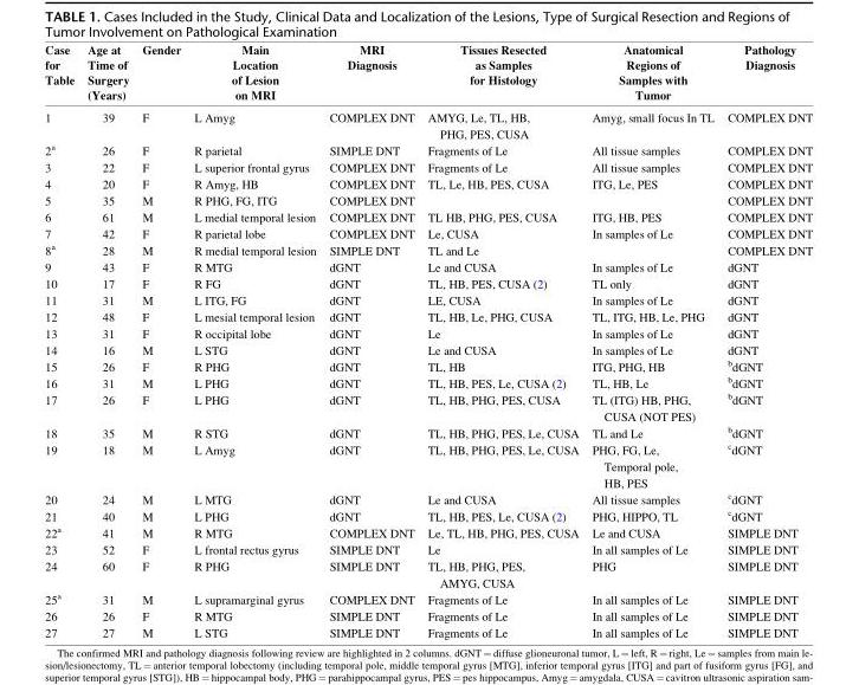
<table><thead><tr><td>Case for Table</td><td>Age at Time of Surgery (Years)</td><td>Gender</td><td>Main Location of Lesion on MRI</td><td>MRI Diagnosis</td><td>Tissues Resected as Samples for Histology</td><td>Anatomical Regions of Samples with Tumor</td><td>Pathology Diagnosis</td></tr></thead><tbody><tr><td>1</td><td>39</td><td>F</td><td>L Amyg</td><td>COMPLEX DNT</td><td>AMYG, Le, TL, HB, PHG, PES, CUSA</td><td>Amyg, small focus In TL</td><td>COMPLEX DNT</td></tr><tr><td>2<sup>a</sup></td><td>26</td><td>F</td><td>R parietal</td><td>SIMPLE DNT</td><td>Fragments of Le</td><td>All tissue samples</td><td>COMPLEX DNT</td></tr><tr><td>3</td><td>22</td><td>F</td><td>L superior frontal gyrus</td><td>COMPLEX DNT</td><td>Fragments of Le</td><td>All tissue samples</td><td>COMPLEX DNT</td></tr><tr><td>4</td><td>20</td><td>F</td><td>R Amyg, HB</td><td>COMPLEX DNT</td><td>TL, Le, HB, PES, CUSA</td><td>ITG, Le, PES</td><td>COMPLEX DNT</td></tr><tr><td>5</td><td>35</td><td>M</td><td>R PHG, FG, ITG</td><td>COMPLEX DNT</td><td></td><td></td><td>COMPLEX DNT</td></tr><tr><td>6</td><td>61</td><td>M</td><td>L medial temporal lesion</td><td>COMPLEX DNT</td><td>TL HB, PHG, PES, CUSA</td><td>ITG, HB, PES</td><td>COMPLEX DNT</td></tr><tr><td>7</td><td>42</td><td>F</td><td>R parietal lobe</td><td>COMPLEX DNT</td><td>Le, CUSA</td><td>In samples of Le</td><td>COMPLEX DNT</td></tr><tr><td>8<sup>a</sup></td><td>28</td><td>M</td><td>R medial temporal lesion</td><td>SIMPLE DNT</td><td>TL and Le</td><td></td><td>COMPLEX DNT</td></tr><tr><td>9</td><td>43</td><td>F</td><td>R MTG</td><td>dGNT</td><td>Le and CUSA</td><td>In samples of Le</td><td>dGNT</td></tr><tr><td>10</td><td>17</td><td>F</td><td>R FG</td><td>dGNT</td><td>TL, HB, PES, CUSA (2)</td><td>TL only</td><td>dGNT</td></tr><tr><td>11</td><td>31</td><td>M</td><td>L ITG, FG</td><td>dGNT</td><td>LE, CUSA</td><td>In samples of Le</td><td>dGNT</td></tr><tr><td>12</td><td>48</td><td>F</td><td>L mesial temporal lesion</td><td>dGNT</td><td>TL, HB, Le, PHG, CUSA</td><td>TL, ITG, HB, Le, PHG</td><td>dGNT</td></tr><tr><td>13</td><td>31</td><td>F</td><td>R occipital lobe</td><td>dGNT</td><td>Le</td><td>In samples of Le</td><td>dGNT</td></tr><tr><td>14</td><td>16</td><td>M</td><td>L STG</td><td>dGNT</td><td>Le and CUSA</td><td>In samples of Le</td><td>dGNT</td></tr><tr><td>15</td><td>26</td><td>F</td><td>R PHG</td><td>dGNT</td><td>TL, HB</td><td>ITG, PHG, HB</td><td><sup>b</sup>dGNT</td></tr><tr><td>16</td><td>31</td><td>M</td><td>L PHG</td><td>dGNT</td><td>TL, HB, PES, Le, CUSA (2)</td><td>TL, HB, Le</td><td><sup>b</sup>dGNT</td></tr><tr><td>17</td><td>26</td><td>F</td><td>L PHG</td><td>dGNT</td><td>TL, HB, PHG, PES, CUSA</td><td>TL (ITG) HB, PHG, CUSA (NOT PES)</td><td><sup>b</sup>dGNT</td></tr><tr><td>18</td><td>35</td><td>M</td><td>R STG</td><td>dGNT</td><td>TL, HB, PHG, PES, Le, CUSA</td><td>TL and Le</td><td><sup>b</sup>dGNT</td></tr><tr><td>19</td><td>18</td><td>M</td><td>L Amyg</td><td>dGNT</td><td>TL, HB, PHG, PES, Le, CUSA</td><td>PHG, FG, Le, Temporal pole, HB, PES</td><td><sup>c</sup>dGNT</td></tr><tr><td>20</td><td>24</td><td>M</td><td>L MTG</td><td>dGNT</td><td>Le and CUSA</td><td>All tissue samples</td><td><sup>c</sup>dGNT</td></tr><tr><td>21</td><td>40</td><td>M</td><td>L PHG</td><td>dGNT</td><td>TL, HB, PES, Le, CUSA (2)</td><td>PHG, HIPPO, TL</td><td><sup>c</sup>dGNT</td></tr><tr><td>22<sup>a</sup></td><td>41</td><td>M</td><td>R MTG</td><td>COMPLEX DNT</td><td>Le, TL, HB, PHG, PES, CUSA</td><td>Le and CUSA</td><td>SIMPLE DNT</td></tr><tr><td>23</td><td>52</td><td>F</td><td>L frontal rectus gyrus</td><td>SIMPLE DNT</td><td>Le</td><td>In all samples of Le</td><td>SIMPLE DNT</td></tr><tr><td>24</td><td>60</td><td>F</td><td>R PHG</td><td>SIMPLE DNT</td><td>TL, HB, PHG, PES, AMYG, CUSA</td><td>PHG</td><td>SIMPLE DNT</td></tr><tr><td>25<sup>a</sup></td><td>31</td><td>M</td><td>L supramarginal gyrus</td><td>COMPLEX DNT</td><td>Fragments of Le</td><td>In all samples of Le</td><td>SIMPLE DNT</td></tr><tr><td>26</td><td>26</td><td>F</td><td>R MTG</td><td>SIMPLE DNT</td><td>Fragments of Le</td><td>In all samples of Le</td><td>SIMPLE DNT</td></tr><tr><td>27</td><td>27</td><td>M</td><td>L STG</td><td>SIMPLE DNT</td><td>Fragments of Le</td><td>In all samples of Le</td><td>SIMPLE DNT</td></tr></tbody></table>